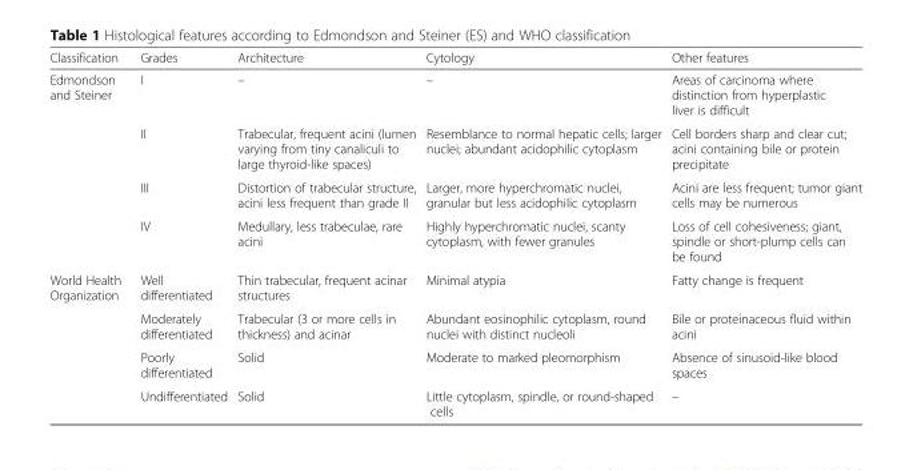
<table><thead><tr><td>Classification</td><td>Grades</td><td>Architecture</td><td>Cytology</td><td>Other features</td></tr></thead><tbody><tr><td rowspan="4">Edmondson and Steiner</td><td>I</td><td>–</td><td>–</td><td>Areas of carcinoma where distinction from hyperplastic liver is difficult</td></tr><tr><td>II</td><td>Trabecular, frequent acini (lumen varying from tiny canaliculi to large thyroid-like spaces)</td><td>Resemblance to normal hepatic cells; larger nuclei; abundant acidophilic cytoplasm</td><td>Cell borders sharp and clear cut; acini containing bile or protein precipitate</td></tr><tr><td>III</td><td>Distortion of trabecular structure, acini less frequent than grade II</td><td>Larger, more hyperchromatic nuclei, granular but less acidophilic cytoplasm</td><td>Acini are less frequent; tumor giant cells may be numerous</td></tr><tr><td>IV</td><td>Medullary, less trabeculae, rare acini</td><td>Highly hyperchromatic nuclei, scanty cytoplasm, with fewer granules</td><td>Loss of cell cohesiveness; giant, spindle or short-plump cells can be found</td></tr><tr><td rowspan="4">World Health Organization</td><td>Well differentiated</td><td>Thin trabecular, frequent acinar structures</td><td>Minimal atypia</td><td>Fatty change is frequent</td></tr><tr><td>Moderately differentiated</td><td>Trabecular (3 or more cells in thickness) and acinar</td><td>Abundant eosinophilic cytoplasm, round nuclei with distinct nucleoli</td><td>Bile or proteinaceous fluid within acini</td></tr><tr><td>Poorly differentiated</td><td>Solid</td><td>Moderate to marked pleomorphism</td><td>Absence of sinusoid-like blood spaces</td></tr><tr><td>Undifferentiated</td><td>Solid</td><td>Little cytoplasm, spindle, or round-shaped cells</td><td>–</td></tr></tbody></table>